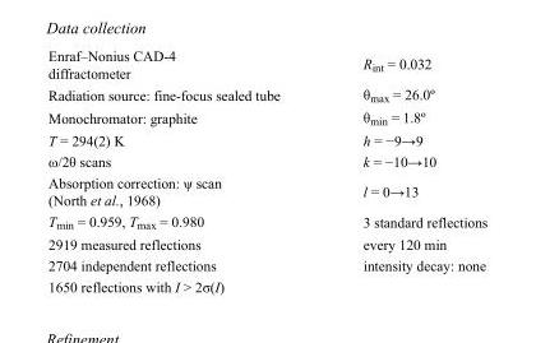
<table><tbody><tr><td>Enraf–Nonius CAD-4 diffractometer</td><td>R<sub>int</sub> = 0.032</td></tr><tr><td>Radiation source: fine-focus sealed tube</td><td>θ<sub>max</sub> = 26.0º</td></tr><tr><td>Monochromator: graphite</td><td>θ<sub>min</sub> = 1.8º</td></tr><tr><td>T = 294(2) K</td><td>h = −9→9</td></tr><tr><td>ω/2θ scans</td><td>k = −10→10</td></tr><tr><td>Absorption correction: ψ scan (North et al., 1968)</td><td>l = 0→13</td></tr><tr><td>T<sub>min</sub> = 0.959, T<sub>max</sub> = 0.980</td><td>3 standard reflections</td></tr><tr><td>2919 measured reflections</td><td>every 120 min</td></tr><tr><td>2704 independent reflections</td><td>intensity decay: none</td></tr><tr><td>1650 reflections with I &gt; 2σ(I)</td><td></td></tr></tbody></table>